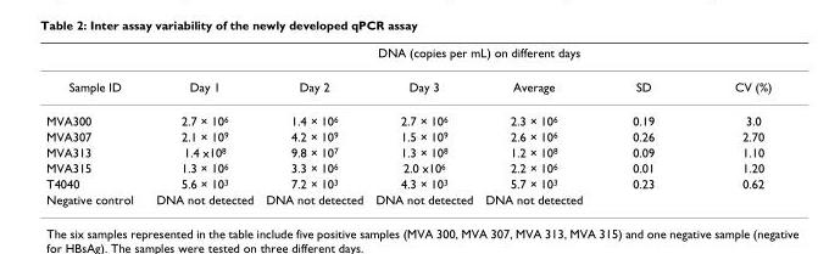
<table><thead><tr><td rowspan="2">Sample ID</td><td colspan="6">DNA (copies per mL) on different days</td></tr><tr><td>Day 1</td><td>Day 2</td><td>Day 3</td><td>Average</td><td>SD</td><td>CV (%)</td></tr></thead><tbody><tr><td>MVA300</td><td>2.7 × 10<sup>6</sup></td><td>1.4 × 10<sup>6</sup></td><td>2.7 × 10<sup>6</sup></td><td>2.3 × 10<sup>6</sup></td><td>0.19</td><td>3.0</td></tr><tr><td>MVA307</td><td>2.1 × 10<sup>9</sup></td><td>4.2 × 10<sup>9</sup></td><td>1.5 × 10<sup>9</sup></td><td>2.6 × 10<sup>6</sup></td><td>0.26</td><td>2.70</td></tr><tr><td>MVA313</td><td>1.4 x10<sup>8</sup></td><td>9.8 × 10<sup>7</sup></td><td>1.3 × 10<sup>8</sup></td><td>1.2 × 10<sup>8</sup></td><td>0.09</td><td>1.10</td></tr><tr><td>MVA315</td><td>1.3 × 10<sup>6</sup></td><td>3.3 × 10<sup>6</sup></td><td>2.0 x10<sup>6</sup></td><td>2.2 × 10<sup>6</sup></td><td>0.01</td><td>1.20</td></tr><tr><td>T4040</td><td>5.6 × 10<sup>3</sup></td><td>7.2 × 10<sup>3</sup></td><td>4.3 × 10<sup>3</sup></td><td>5.7 × 10<sup>3</sup></td><td>0.23</td><td>0.62</td></tr><tr><td>Negative control</td><td>DNA not detected</td><td>DNA not detected</td><td>DNA not detected</td><td>DNA not detected</td><td></td><td></td></tr></tbody></table>